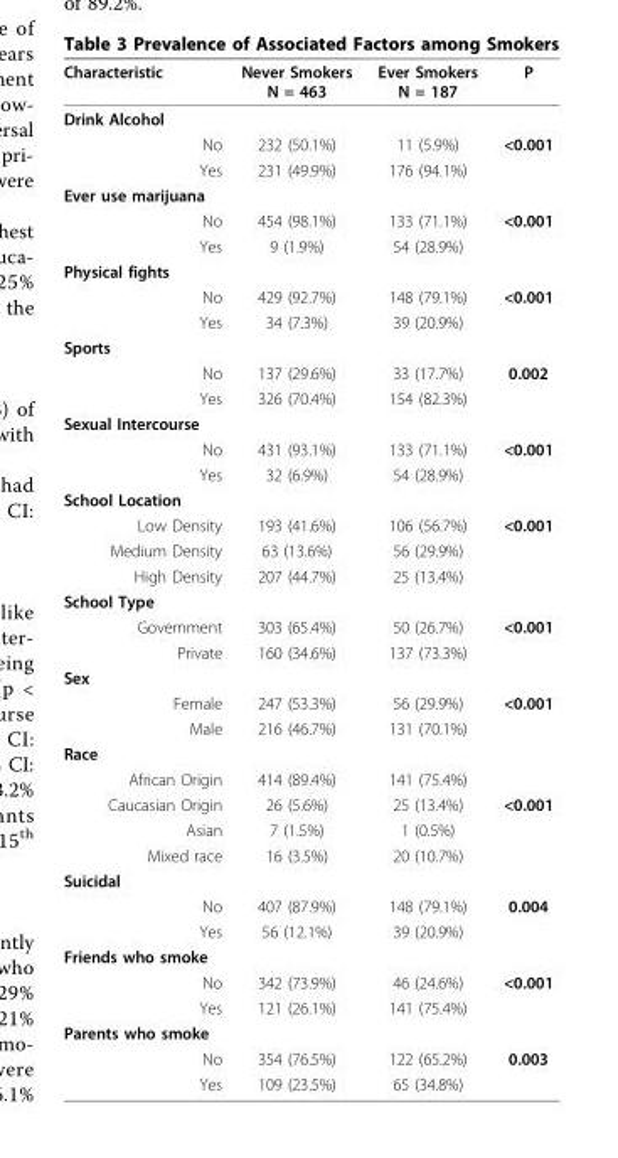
<table><thead><tr><td>Characteristic</td><td>Never Smokers N = 463</td><td>Ever Smokers N = 187</td><td>P</td></tr></thead><tbody><tr><td colspan="4">Drink Alcohol</td></tr><tr><td>No</td><td>232 (50.1%)</td><td>11 (5.9%)</td><td>&lt;0.001</td></tr><tr><td>Yes</td><td>231 (49.9%)</td><td>176 (94.1%)</td><td></td></tr><tr><td colspan="4">Ever use marijuana</td></tr><tr><td>No</td><td>454 (98.1%)</td><td>133 (71.1%)</td><td>&lt;0.001</td></tr><tr><td>Yes</td><td>9 (1.9%)</td><td>54 (28.9%)</td><td></td></tr><tr><td colspan="4">Physical fights</td></tr><tr><td>No</td><td>429 (92.7%)</td><td>148 (79.1%)</td><td>&lt;0.001</td></tr><tr><td>Yes</td><td>34 (7.3%)</td><td>39 (20.9%)</td><td></td></tr><tr><td colspan="4">Sports</td></tr><tr><td>No</td><td>137 (29.6%)</td><td>33 (17.7%)</td><td>0.002</td></tr><tr><td>Yes</td><td>326 (70.4%)</td><td>154 (82.3%)</td><td></td></tr><tr><td colspan="4">Sexual Intercourse</td></tr><tr><td>No</td><td>431 (93.1%)</td><td>133 (71.1%)</td><td>&lt;0.001</td></tr><tr><td>Yes</td><td>32 (6.9%)</td><td>54 (28.9%)</td><td></td></tr><tr><td colspan="4">School Location</td></tr><tr><td>Low Density</td><td>193 (41.6%)</td><td>106 (56.7%)</td><td>&lt;0.001</td></tr><tr><td>Medium Density</td><td>63 (13.6%)</td><td>56 (29.9%)</td><td></td></tr><tr><td>High Density</td><td>207 (44.7%)</td><td>25 (13.4%)</td><td></td></tr><tr><td colspan="4">School Type</td></tr><tr><td>Government</td><td>303 (65.4%)</td><td>50 (26.7%)</td><td>&lt;0.001</td></tr><tr><td>Private</td><td>160 (34.6%)</td><td>137 (73.3%)</td><td></td></tr><tr><td colspan="4">Sex</td></tr><tr><td>Female</td><td>247 (53.3%)</td><td>56 (29.9%)</td><td>&lt;0.001</td></tr><tr><td>Male</td><td>216 (46.7%)</td><td>131 (70.1%)</td><td></td></tr><tr><td colspan="4">Race</td></tr><tr><td>African Origin</td><td>414 (89.4%)</td><td>141 (75.4%)</td><td></td></tr><tr><td>Caucasian Origin</td><td>26 (5.6%)</td><td>25 (13.4%)</td><td>&lt;0.001</td></tr><tr><td>Asian</td><td>7 (1.5%)</td><td>1 (0.5%)</td><td></td></tr><tr><td>Mixed race</td><td>16 (3.5%)</td><td>20 (10.7%)</td><td></td></tr><tr><td colspan="4">Suicidal</td></tr><tr><td>No</td><td>407 (87.9%)</td><td>148 (79.1%)</td><td>0.004</td></tr><tr><td>Yes</td><td>56 (12.1%)</td><td>39 (20.9%)</td><td></td></tr><tr><td colspan="4">Friends who smoke</td></tr><tr><td>No</td><td>342 (73.9%)</td><td>46 (24.6%)</td><td>&lt;0.001</td></tr><tr><td>Yes</td><td>121 (26.1%)</td><td>141 (75.4%)</td><td></td></tr><tr><td colspan="4">Parents who smoke</td></tr><tr><td>No</td><td>354 (76.5%)</td><td>122 (65.2%)</td><td>0.003</td></tr><tr><td>Yes</td><td>109 (23.5%)</td><td>65 (34.8%)</td><td></td></tr></tbody></table>